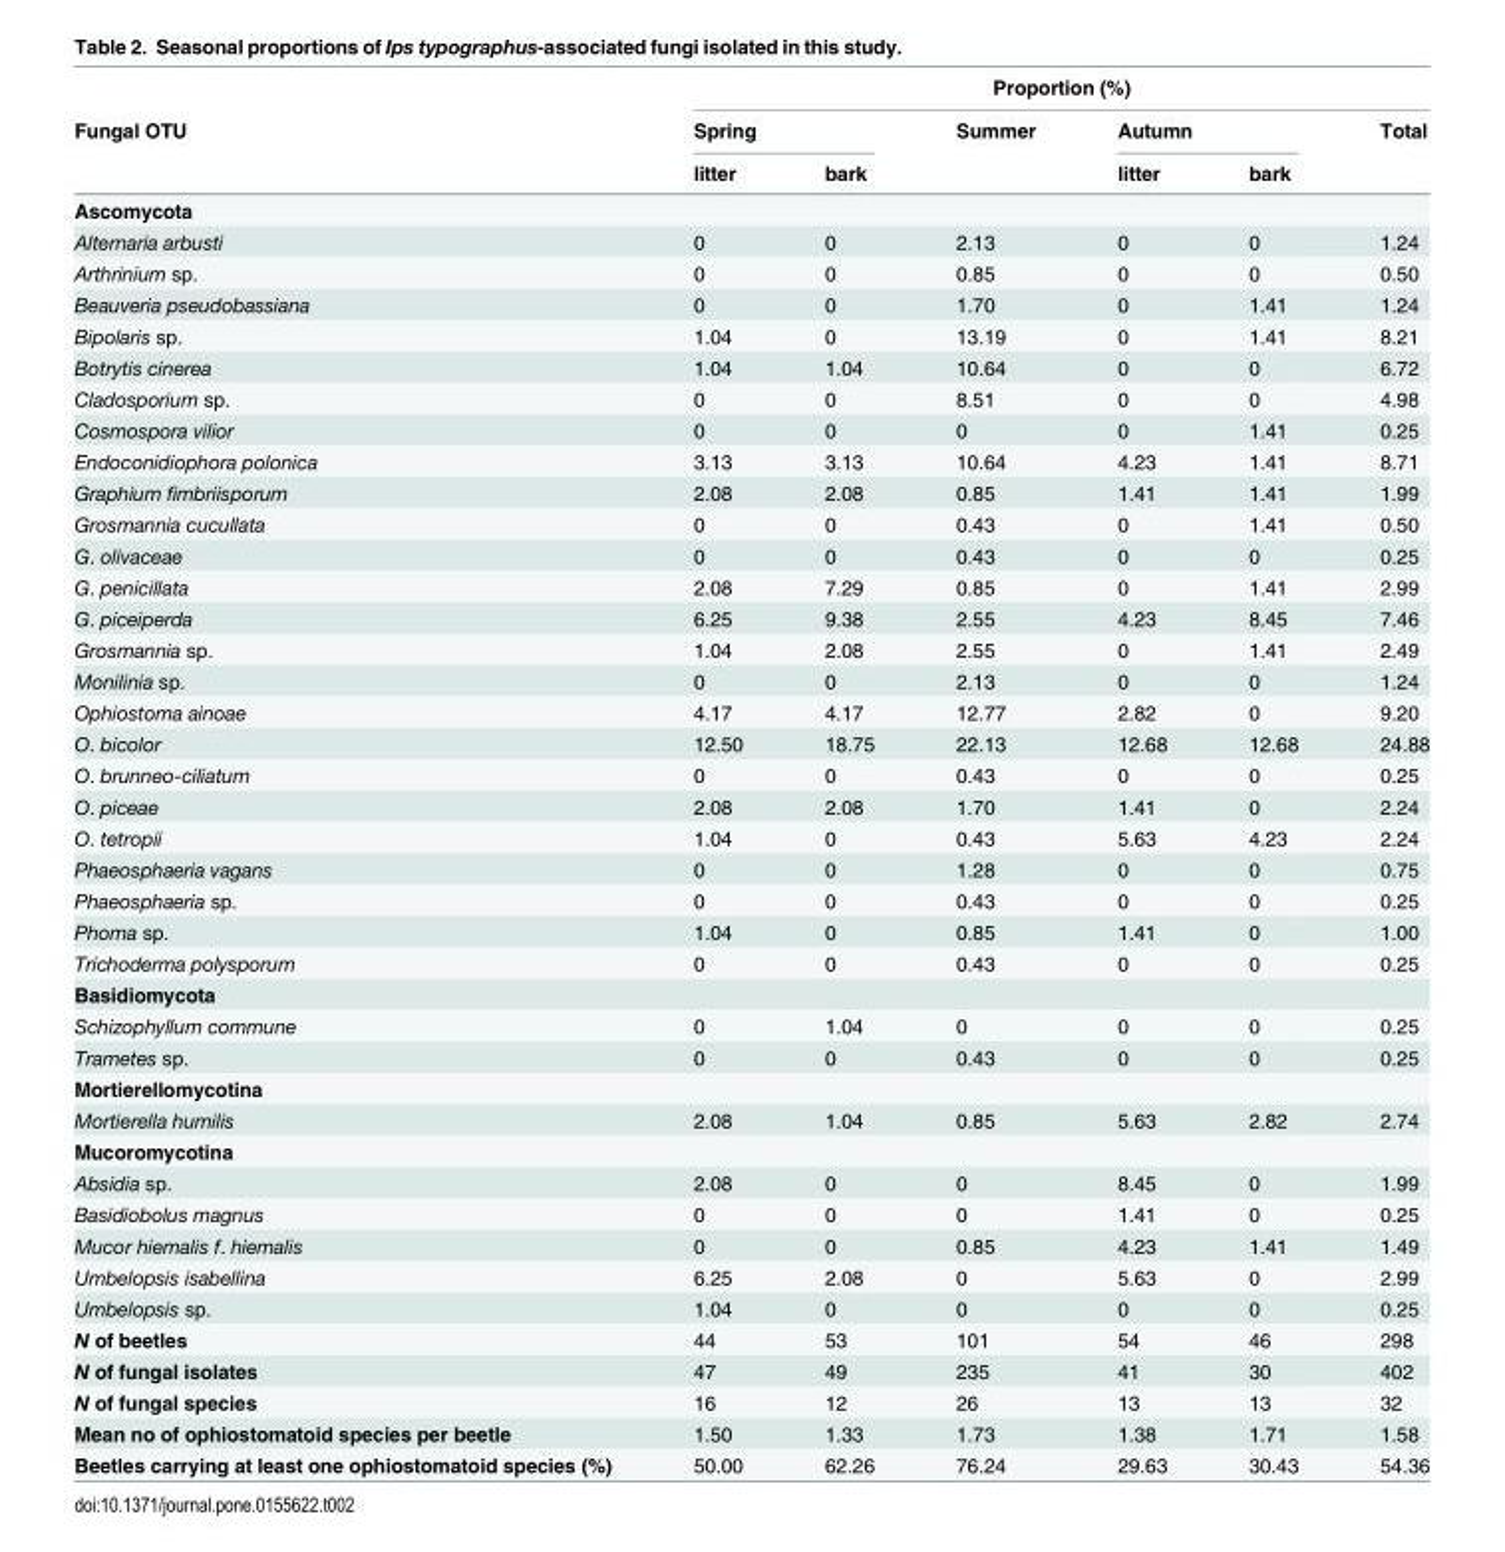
<table><thead><tr><td rowspan="3">Fungal OTU</td><td colspan="6">Proportion (%)</td></tr><tr><td colspan="2">Spring</td><td rowspan="2">Summer</td><td colspan="2">Autumn</td><td rowspan="2">Total</td></tr><tr><td>litter</td><td>bark</td><td>litter</td><td>bark</td></tr></thead><tbody><tr><td colspan="7">Ascomycota</td></tr><tr><td>Alternaria arbusti</td><td>0</td><td>0</td><td>2.13</td><td>0</td><td>0</td><td>1.24</td></tr><tr><td>Arthrinium sp.</td><td>0</td><td>0</td><td>0.85</td><td>0</td><td>0</td><td>0.50</td></tr><tr><td>Beauveria pseudobassiana</td><td>0</td><td>0</td><td>1.70</td><td>0</td><td>1.41</td><td>1.24</td></tr><tr><td>Bipolaris sp.</td><td>1.04</td><td>0</td><td>13.19</td><td>0</td><td>1.41</td><td>8.21</td></tr><tr><td>Botrytis cinerea</td><td>1.04</td><td>1.04</td><td>10.64</td><td>0</td><td>0</td><td>6.72</td></tr><tr><td>Cladosporium sp.</td><td>0</td><td>0</td><td>8.51</td><td>0</td><td>0</td><td>4.98</td></tr><tr><td>Cosmospora vilior</td><td>0</td><td>0</td><td>0</td><td>0</td><td>1.41</td><td>0.25</td></tr><tr><td>Endoconidiophora polonica</td><td>3.13</td><td>3.13</td><td>10.64</td><td>4.23</td><td>1.41</td><td>8.71</td></tr><tr><td>Graphium fimbriisporum</td><td>2.08</td><td>2.08</td><td>0.85</td><td>1.41</td><td>1.41</td><td>1.99</td></tr><tr><td>Grosmannia cucullata</td><td>0</td><td>0</td><td>0.43</td><td>0</td><td>1.41</td><td>0.50</td></tr><tr><td>G. olivaceae</td><td>0</td><td>0</td><td>0.43</td><td>0</td><td>0</td><td>0.25</td></tr><tr><td>G. penicillata</td><td>2.08</td><td>7.29</td><td>0.85</td><td>0</td><td>1.41</td><td>2.99</td></tr><tr><td>G. piceiperda</td><td>6.25</td><td>9.38</td><td>2.55</td><td>4.23</td><td>8.45</td><td>7.46</td></tr><tr><td>Grosmannia sp.</td><td>1.04</td><td>2.08</td><td>2.55</td><td>0</td><td>1.41</td><td>2.49</td></tr><tr><td>Monilinia sp.</td><td>0</td><td>0</td><td>2.13</td><td>0</td><td>0</td><td>1.24</td></tr><tr><td>Ophiostoma ainoae</td><td>4.17</td><td>4.17</td><td>12.77</td><td>2.82</td><td>0</td><td>9.20</td></tr><tr><td>O. bicolor</td><td>12.50</td><td>18.75</td><td>22.13</td><td>12.68</td><td>12.68</td><td>24.88</td></tr><tr><td>O. brunneo-ciliatum</td><td>0</td><td>0</td><td>0.43</td><td>0</td><td>0</td><td>0.25</td></tr><tr><td>O. piceae</td><td>2.08</td><td>2.08</td><td>1.70</td><td>1.41</td><td>0</td><td>2.24</td></tr><tr><td>O. tetropii</td><td>1.04</td><td>0</td><td>0.43</td><td>5.63</td><td>4.23</td><td>2.24</td></tr><tr><td>Phaeosphaeria vagans</td><td>0</td><td>0</td><td>1.28</td><td>0</td><td>0</td><td>0.75</td></tr><tr><td>Phaeosphaeria sp.</td><td>0</td><td>0</td><td>0.43</td><td>0</td><td>0</td><td>0.25</td></tr><tr><td>Phoma sp.</td><td>1.04</td><td>0</td><td>0.85</td><td>1.41</td><td>0</td><td>1.00</td></tr><tr><td>Trichoderma polysporum</td><td>0</td><td>0</td><td>0.43</td><td>0</td><td>0</td><td>0.25</td></tr><tr><td colspan="7">Basidiomycota</td></tr><tr><td>Schizophyllum commune</td><td>0</td><td>1.04</td><td>0</td><td>0</td><td>0</td><td>0.25</td></tr><tr><td>Trametes sp.</td><td>0</td><td>0</td><td>0.43</td><td>0</td><td>0</td><td>0.25</td></tr><tr><td colspan="7">Mortierellomycotina</td></tr><tr><td>Mortierella humilis</td><td>2.08</td><td>1.04</td><td>0.85</td><td>5.63</td><td>2.82</td><td>2.74</td></tr><tr><td colspan="7">Mucoromycotina</td></tr><tr><td>Absidia sp.</td><td>2.08</td><td>0</td><td>0</td><td>8.45</td><td>0</td><td>1.99</td></tr><tr><td>Basidiobolus magnus</td><td>0</td><td>0</td><td>0</td><td>1.41</td><td>0</td><td>0.25</td></tr><tr><td>Mucor hiemalis f. hiemalis</td><td>0</td><td>0</td><td>0.85</td><td>4.23</td><td>1.41</td><td>1.49</td></tr><tr><td>Umbelopsis isabellina</td><td>6.25</td><td>2.08</td><td>0</td><td>5.63</td><td>0</td><td>2.99</td></tr><tr><td>Umbelopsis sp.</td><td>1.04</td><td>0</td><td>0</td><td>0</td><td>0</td><td>0.25</td></tr><tr><td>N of beetles</td><td>44</td><td>53</td><td>101</td><td>54</td><td>46</td><td>298</td></tr><tr><td>N of fungal isolates</td><td>47</td><td>49</td><td>235</td><td>41</td><td>30</td><td>402</td></tr><tr><td>N of fungal species</td><td>16</td><td>12</td><td>26</td><td>13</td><td>13</td><td>32</td></tr><tr><td>Mean no of ophiostomatoid species per beetle</td><td>1.50</td><td>1.33</td><td>1.73</td><td>1.38</td><td>1.71</td><td>1.58</td></tr><tr><td>Beetles carrying at least one ophiostomatoid species (%)</td><td>50.00</td><td>62.26</td><td>76.24</td><td>29.63</td><td>30.43</td><td>54.36</td></tr></tbody></table>